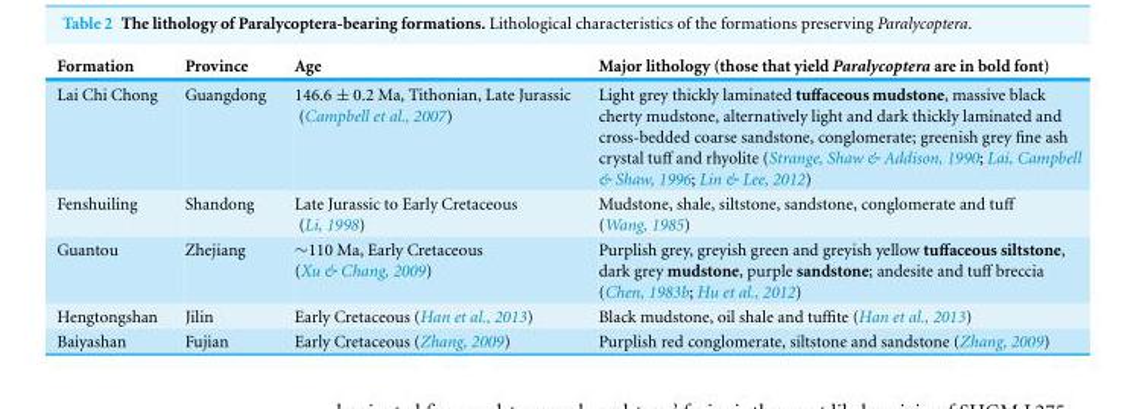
<table><thead><tr><td>Formation</td><td>Province</td><td>Age</td><td>Major lithology (those that yield Paralycoptera are in bold font)</td></tr></thead><tbody><tr><td>Lai Chi Chong</td><td>Guangdong</td><td>146.6 ± 0.2 Ma, Tithonian, Late Jurassic (Campbell et al., 2007)</td><td>Light grey thickly laminated tuffaceous mudstone, massive black cherty mudstone, alternatively light and dark thickly laminated and cross-bedded coarse sandstone, conglomerate; greenish grey fine ash crystal tuff and rhyolite (Strange, Shaw &amp; Addison, 1990; Lai, Campbell &amp; Shaw, 1996; Lin &amp; Lee, 2012)</td></tr><tr><td>Fenshuiling</td><td>Shandong</td><td>Late Jurassic to Early Cretaceous (Li, 1998)</td><td>Mudstone, shale, siltstone, sandstone, conglomerate and tuff (Wang, 1985)</td></tr><tr><td>Guantou</td><td>Zhejiang</td><td>∼110 Ma, Early Cretaceous (Xu &amp; Chang, 2009)</td><td>Purplish grey, greyish green and greyish yellow tuffaceous siltstone, dark grey mudstone, purple sandstone; andesite and tuff breccia (Chen, 1983b; Hu et al., 2012)</td></tr><tr><td>Hengtongshan</td><td>Jilin</td><td>Early Cretaceous (Han et al., 2013)</td><td>Black mudstone, oil shale and tuffite (Han et al., 2013)</td></tr><tr><td>Baiyashan</td><td>Fujian</td><td>Early Cretaceous (Zhang, 2009)</td><td>Purplish red conglomerate, siltstone and sandstone (Zhang, 2009)</td></tr></tbody></table>